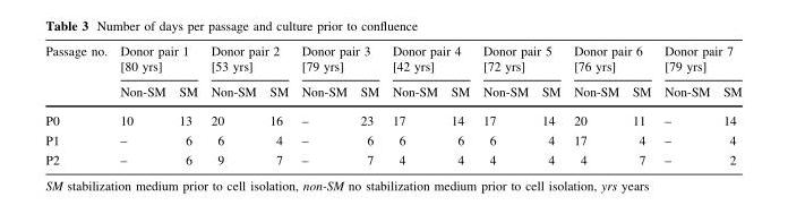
<table><thead><tr><td rowspan="2">Passage no.</td><td colspan="2">Donor pair 1 [80 yrs]</td><td colspan="2">Donor pair 2 [53 yrs]</td><td colspan="2">Donor pair 3 [79 yrs]</td><td colspan="2">Donor pair 4 [42 yrs]</td><td colspan="2">Donor pair 5 [72 yrs]</td><td colspan="2">Donor pair 6 [76 yrs]</td><td colspan="2">Donor pair 7 [79 yrs]</td></tr><tr><td>Non-SM</td><td>SM</td><td>Non-SM</td><td>SM</td><td>Non-SM</td><td>SM</td><td>Non-SM</td><td>SM</td><td>Non-SM</td><td>SM</td><td>Non-SM</td><td>SM</td><td>Non-SM</td><td>SM</td></tr></thead><tbody><tr><td>P0</td><td>10</td><td>13</td><td>20</td><td>16</td><td>–</td><td>23</td><td>17</td><td>14</td><td>17</td><td>14</td><td>20</td><td>11</td><td>–</td><td>14</td></tr><tr><td>P1</td><td>–</td><td>6</td><td>6</td><td>4</td><td>–</td><td>6</td><td>6</td><td>6</td><td>6</td><td>4</td><td>17</td><td>4</td><td>–</td><td>4</td></tr><tr><td>P2</td><td>–</td><td>6</td><td>9</td><td>7</td><td>–</td><td>7</td><td>4</td><td>4</td><td>4</td><td>4</td><td>4</td><td>7</td><td>–</td><td>2</td></tr></tbody></table>